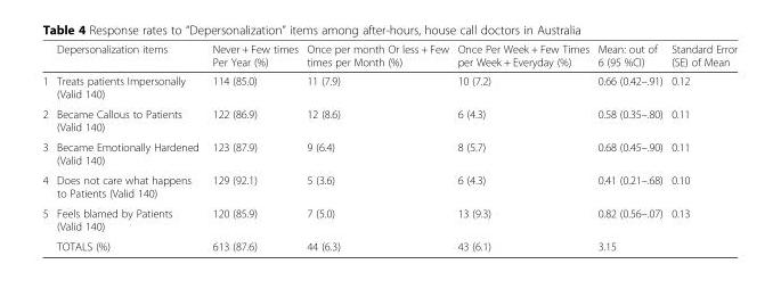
<table><thead><tr><td></td><td>Depersonalization items</td><td>Never + Few times Per Year (%)</td><td>Once per month Or less + Few times per Month (%)</td><td>Once Per Week + Few Times per Week + Everyday (%)</td><td>Mean: out of 6 (95 %CI)</td><td>Standard Error (SE) of Mean</td></tr></thead><tbody><tr><td>1</td><td>Treats patients Impersonally (Valid 140)</td><td>114 (85.0)</td><td>11 (7.9)</td><td>10 (7.2)</td><td>0.66 (0.42–.91)</td><td>0.12</td></tr><tr><td>2</td><td>Became Callous to Patients (Valid 140)</td><td>122 (86.9)</td><td>12 (8.6)</td><td>6 (4.3)</td><td>0.58 (0.35–.80)</td><td>0.11</td></tr><tr><td>3</td><td>Became Emotionally Hardened (Valid 140)</td><td>123 (87.9)</td><td>9 (6.4)</td><td>8 (5.7)</td><td>0.68 (0.45–.90)</td><td>0.11</td></tr><tr><td>4</td><td>Does not care what happens to Patients (Valid 140)</td><td>129 (92.1)</td><td>5 (3.6)</td><td>6 (4.3)</td><td>0.41 (0.21–.68)</td><td>0.10</td></tr><tr><td rowspan="2">5</td><td>Feels blamed by Patients (Valid 140)</td><td>120 (85.9)</td><td>7 (5.0)</td><td>13 (9.3)</td><td>0.82 (0.56–.07)</td><td>0.13</td></tr><tr><td>TOTALS (%)</td><td>613 (87.6)</td><td>44 (6.3)</td><td>43 (6.1)</td><td>3.15</td><td></td></tr></tbody></table>